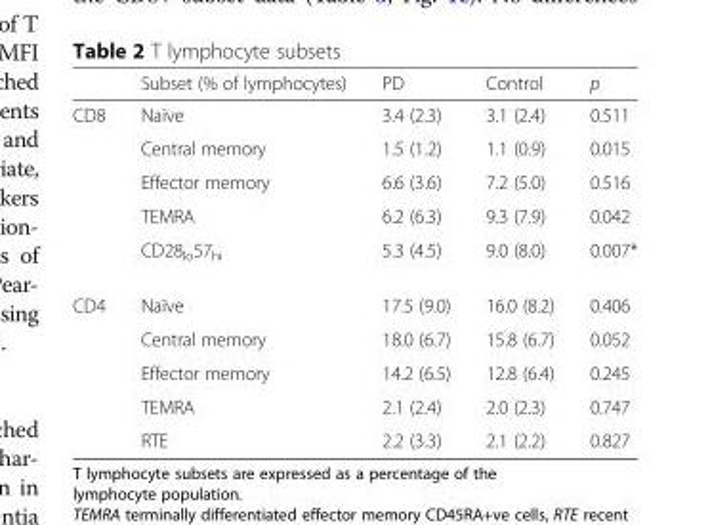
<table><thead><tr><td></td><td>Subset (% of lymphocytes)</td><td>PD</td><td>Control</td><td>p</td></tr></thead><tbody><tr><td rowspan="5">CD8</td><td>Naïve</td><td>3.4 (2.3)</td><td>3.1 (2.4)</td><td>0.511</td></tr><tr><td>Central memory</td><td>1.5 (1.2)</td><td>1.1 (0.9)</td><td>0.015</td></tr><tr><td>Effector memory</td><td>6.6 (3.6)</td><td>7.2 (5.0)</td><td>0.516</td></tr><tr><td>TEMRA</td><td>6.2 (6.3)</td><td>9.3 (7.9)</td><td>0.042</td></tr><tr><td>CD28<sub>lo</sub>57<sub>hi</sub></td><td>5.3 (4.5)</td><td>9.0 (8.0)</td><td>0.007*</td></tr><tr><td rowspan="5">CD4</td><td>Naïve</td><td>17.5 (9.0)</td><td>16.0 (8.2)</td><td>0.406</td></tr><tr><td>Central memory</td><td>18.0 (6.7)</td><td>15.8 (6.7)</td><td>0.052</td></tr><tr><td>Effector memory</td><td>14.2 (6.5)</td><td>12.8 (6.4)</td><td>0.245</td></tr><tr><td>TEMRA</td><td>2.1 (2.4)</td><td>2.0 (2.3)</td><td>0.747</td></tr><tr><td>RTE</td><td>2.2 (3.3)</td><td>2.1 (2.2)</td><td>0.827</td></tr></tbody></table>